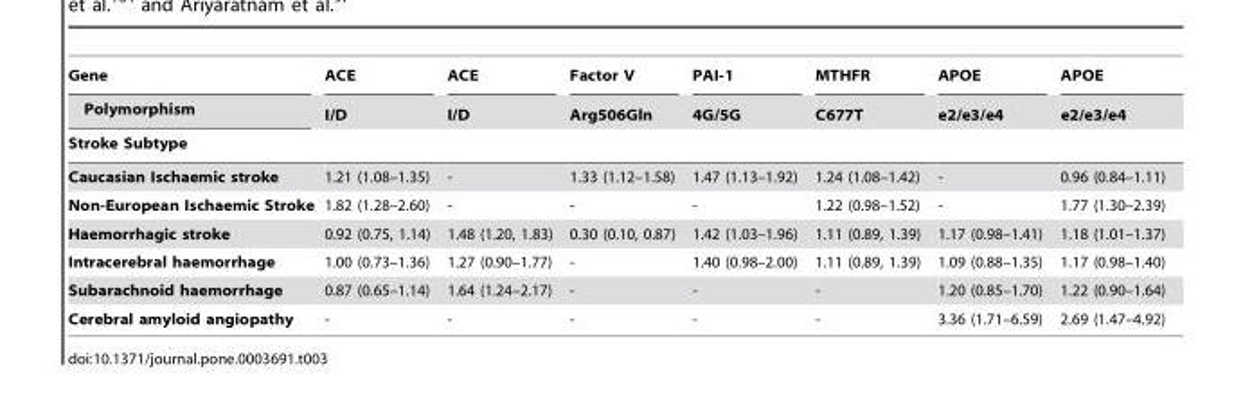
<table><thead><tr><td rowspan="3">Gene Polymorphism Stroke Subtype</td><td rowspan="3">ACE I/D</td><td rowspan="3">ACE I/D</td><td rowspan="3">Factor V Arg506Gln</td><td rowspan="3">PAI-1 4G/5G</td><td rowspan="3">MTHFR C677T</td><td rowspan="3">APOE e2/e3/e4</td><td rowspan="3">APOE e2/e3/e4</td></tr><tr></tr><tr></tr></thead><tbody><tr><td>Caucasian Ischaemic stroke</td><td>1.21 (1.08–1.35)</td><td>-</td><td>1.33 (1.12–1.58)</td><td>1.47 (1.13–1.92)</td><td>1.24 (1.08–1.42)</td><td>-</td><td>0.96 (0.84–1.11)</td></tr><tr><td>Non-European Ischaemic Stroke</td><td>1.82 (1.28–2.60)</td><td>-</td><td>-</td><td>-</td><td>1.22 (0.98–1.52)</td><td>-</td><td>1.77 (1.30–2.39)</td></tr><tr><td>Haemorrhagic stroke</td><td>0.92 (0.75, 1.14)</td><td>1.48 (1.20, 1.83)</td><td>0.30 (0.10, 0.87)</td><td>1.42 (1.03–1.96)</td><td>1.11 (0.89, 1.39)</td><td>1.17 (0.98–1.41)</td><td>1.18 (1.01–1.37)</td></tr><tr><td>Intracerebral haemorrhage</td><td>1.00 (0.73–1.36)</td><td>1.27 (0.90–1.77)</td><td>-</td><td>1.40 (0.98–2.00)</td><td>1.11 (0.89, 1.39)</td><td>1.09 (0.88–1.35)</td><td>1.17 (0.98–1.40)</td></tr><tr><td>Subarachnoid haemorrhage</td><td>0.87 (0.65–1.14)</td><td>1.64 (1.24–2.17)</td><td>-</td><td>-</td><td>-</td><td>1.20 (0.85–1.70)</td><td>1.22 (0.90–1.64)</td></tr><tr><td>Cerebral amyloid angiopathy</td><td>-</td><td>-</td><td>-</td><td>-</td><td>-</td><td>3.36 (1.71–6.59)</td><td>2.69 (1.47–4.92)</td></tr></tbody></table>